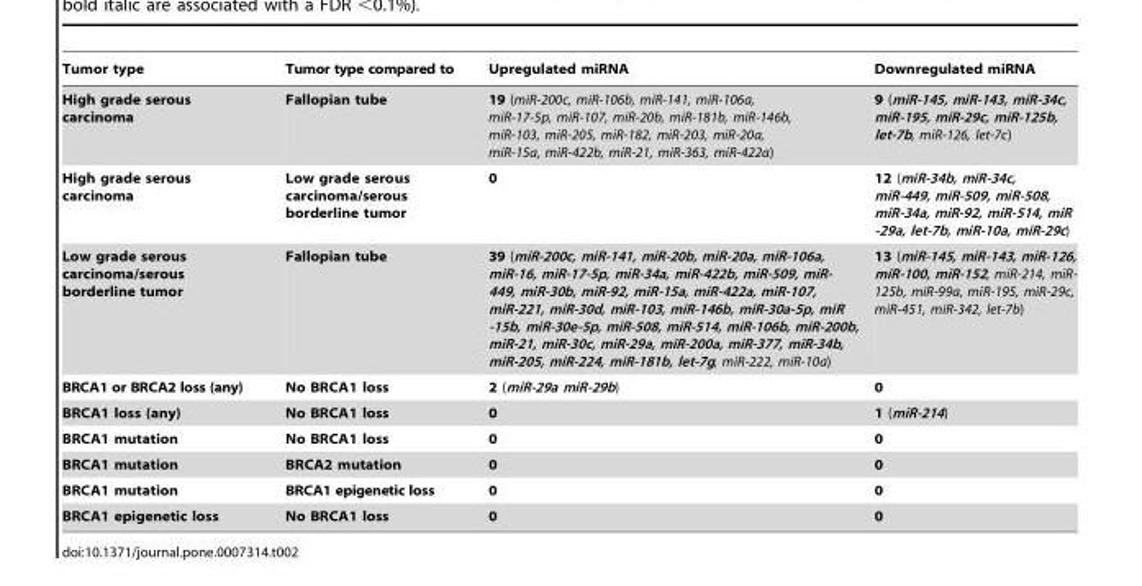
<table><thead><tr><td>Tumor type</td><td>Tumor type compared to</td><td>Upregulated miRNA</td><td>Downregulated miRNA</td></tr></thead><tbody><tr><td>High grade serous carcinoma</td><td>Fallopian tube</td><td>19 (miR-200c, miR-106b, miR-141, miR-106a, miR-17-5p, miR-107, miR-20b, miR-181b, miR-146b, miR-103, miR-205, miR-182, miR-203, miR-20a, miR-15a, miR-422b, miR-21, miR-363, miR-422a)</td><td>9 (miR-145, miR-143, miR-34c, miR-195, miR-29c, miR-125b, let-7b, miR-126, let-7c)</td></tr><tr><td>High grade serous carcinoma</td><td>Low grade serous carcinoma/serous borderline tumor</td><td>0</td><td>12 (miR-34b, miR-34c, miR-449, miR-509, miR-508, miR-34a, miR-92, miR-514, miR -29a, let-7b, miR-10a, miR-29c)</td></tr><tr><td>Low grade serous carcinoma/serous borderline tumor</td><td>Fallopian tube</td><td>39 (miR-200c, miR-141, miR-20b, miR-20a, miR-106a, miR-16, miR-17-5p, miR-34a, miR-422b, miR-509, miR- 449, miR-30b, miR-92, miR-15a, miR-422a, miR-107, miR-221, miR-30d, miR-103, miR-146b, miR-30a-5p, miR -15b, miR-30e-5p, miR-508, miR-514, miR-106b, miR-200b, miR-21, miR-30c, miR-29a, miR-200a, miR-377, miR-34b, miR-205, miR-224, miR-181b, let-7g, miR-222, miR-10a)</td><td>13 (miR-145, miR-143, miR-126, miR-100, miR-152, miR-214, miR- 125b, miR-99a, miR-195, miR-29c, miR-451, miR-342, let-7b)</td></tr><tr><td>BRCA1 or BRCA2 loss (any)</td><td>No BRCA1 loss</td><td>2 (miR-29a miR-29b)</td><td>0</td></tr><tr><td>BRCA1 loss (any)</td><td>No BRCA1 loss</td><td>0</td><td>1 (miR-214)</td></tr><tr><td>BRCA1 mutation</td><td>No BRCA1 loss</td><td>0</td><td>0</td></tr><tr><td>BRCA1 mutation</td><td>BRCA2 mutation</td><td>0</td><td>0</td></tr><tr><td>BRCA1 mutation</td><td>BRCA1 epigenetic loss</td><td>0</td><td>0</td></tr><tr><td>BRCA1 epigenetic loss</td><td>No BRCA1 loss</td><td>0</td><td>0</td></tr></tbody></table>